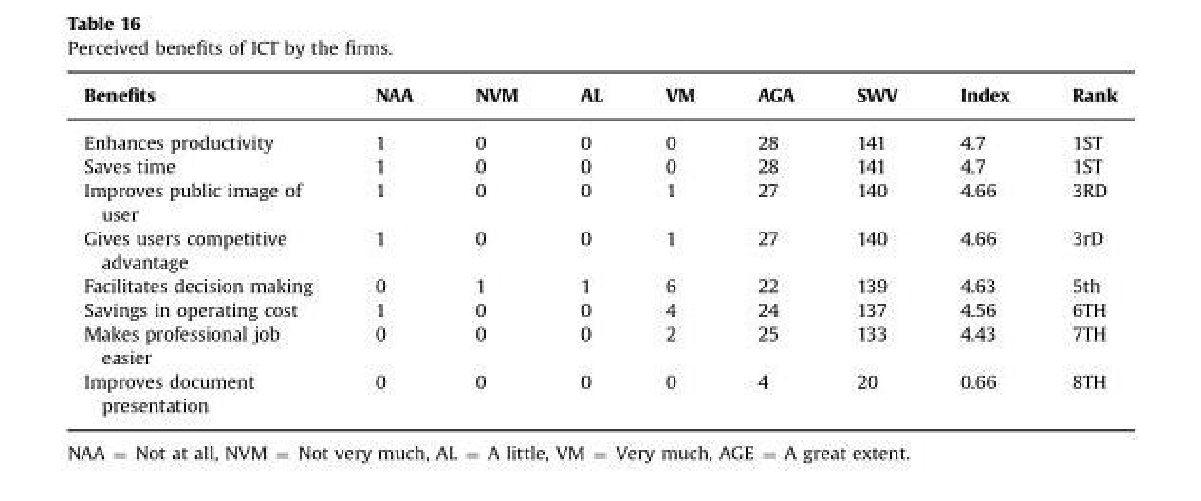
<table><thead><tr><td>Benefits</td><td>NAA</td><td>NVM</td><td>AL</td><td>VM</td><td>AGA</td><td>SWV</td><td>Index</td><td>Rank</td></tr></thead><tbody><tr><td>Enhances productivity</td><td>1</td><td>0</td><td>0</td><td>0</td><td>28</td><td>141</td><td>4.7</td><td>1ST</td></tr><tr><td>Saves time</td><td>1</td><td>0</td><td>0</td><td>0</td><td>28</td><td>141</td><td>4.7</td><td>1ST</td></tr><tr><td>Improves public image of user</td><td>1</td><td>0</td><td>0</td><td>1</td><td>27</td><td>140</td><td>4.66</td><td>3RD</td></tr><tr><td>Gives users competitive advantage</td><td>1</td><td>0</td><td>0</td><td>1</td><td>27</td><td>140</td><td>4.66</td><td>3rD</td></tr><tr><td>Facilitates decision making</td><td>0</td><td>1</td><td>1</td><td>6</td><td>22</td><td>139</td><td>4.63</td><td>5th</td></tr><tr><td>Savings in operating cost</td><td>1</td><td>0</td><td>0</td><td>4</td><td>24</td><td>137</td><td>4.56</td><td>6TH</td></tr><tr><td>Makes professional job easier</td><td>0</td><td>0</td><td>0</td><td>2</td><td>25</td><td>133</td><td>4.43</td><td>7TH</td></tr><tr><td>Improves document presentation</td><td>0</td><td>0</td><td>0</td><td>0</td><td>4</td><td>20</td><td>0.66</td><td>8TH</td></tr></tbody></table>